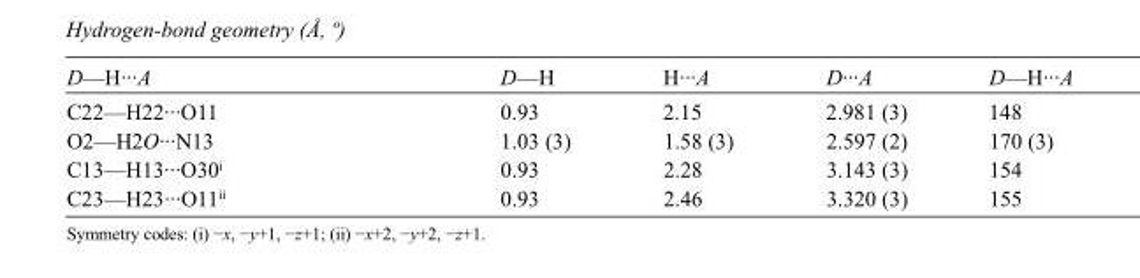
<table><tbody><tr><td>D—H···A</td><td>D—H</td><td>H···A</td><td>D···A</td><td>D—H···A</td></tr><tr><td>C22—H22···O11</td><td>0.93</td><td>2.15</td><td>2.981 (3)</td><td>148</td></tr><tr><td>O2—H2O···N13</td><td>1.03 (3)</td><td>1.58 (3)</td><td>2.597 (2)</td><td>170 (3)</td></tr><tr><td>C13—H13···O30<sup>i</sup></td><td>0.93</td><td>2.28</td><td>3.143 (3)</td><td>154</td></tr><tr><td>C23—H23···O11<sup>ii</sup></td><td>0.93</td><td>2.46</td><td>3.320 (3)</td><td>155</td></tr></tbody></table>